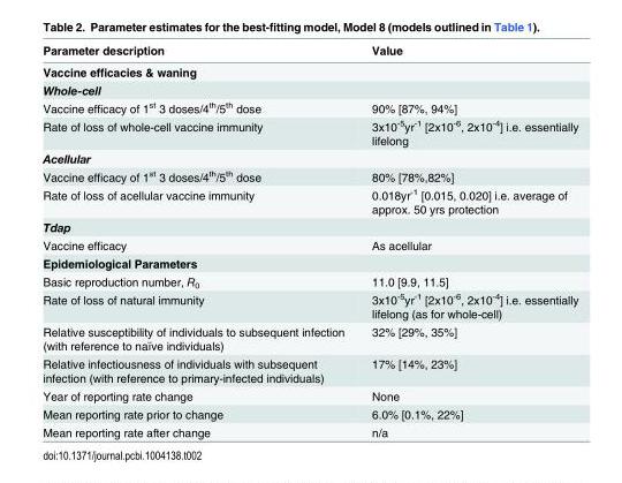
<table><thead><tr><td>Parameter description</td><td>Value</td></tr></thead><tbody><tr><td colspan="2">Vaccine efficacies &amp; waning</td></tr><tr><td colspan="2">Whole-cell</td></tr><tr><td>Vaccine efficacy of 1<sup>st</sup> 3 doses/4<sup>th</sup>/5<sup>th</sup> dose</td><td>90% [87%, 94%]</td></tr><tr><td>Rate of loss of whole-cell vaccine immunity</td><td>3x10<sup>-5</sup>yr<sup>-1</sup> [2x10<sup>-6</sup>, 2x10<sup>-4</sup>] i.e. essentially lifelong</td></tr><tr><td colspan="2">Acellular</td></tr><tr><td>Vaccine efficacy of 1<sup>st</sup> 3 doses/4<sup>th</sup>/5<sup>th</sup> dose</td><td>80% [78%,82%]</td></tr><tr><td>Rate of loss of acellular vaccine immunity</td><td>0.018yr<sup>-1</sup> [0.015, 0.020] i.e. average of approx. 50 yrs protection</td></tr><tr><td colspan="2">Tdap</td></tr><tr><td>Vaccine efficacy</td><td>As acellular</td></tr><tr><td colspan="2">Epidemiological Parameters</td></tr><tr><td>Basic reproduction number, R<sub>0</sub></td><td>11.0 [9.9, 11.5]</td></tr><tr><td>Rate of loss of natural immunity</td><td>3x10<sup>-5</sup>yr<sup>-1</sup> [2x10<sup>-6</sup>, 2x10<sup>-4</sup>] i.e. essentially lifelong (as for whole-cell)</td></tr><tr><td>Relative susceptibility of individuals to subsequent infection (with reference to naïve individuals)</td><td>32% [29%, 35%]</td></tr><tr><td>Relative infectiousness of individuals with subsequent infection (with reference to primary-infected individuals)</td><td>17% [14%, 23%]</td></tr><tr><td>Year of reporting rate change</td><td>None</td></tr><tr><td>Mean reporting rate prior to change</td><td>6.0% [0.1%, 22%]</td></tr><tr><td>Mean reporting rate after change</td><td>n/a</td></tr></tbody></table>